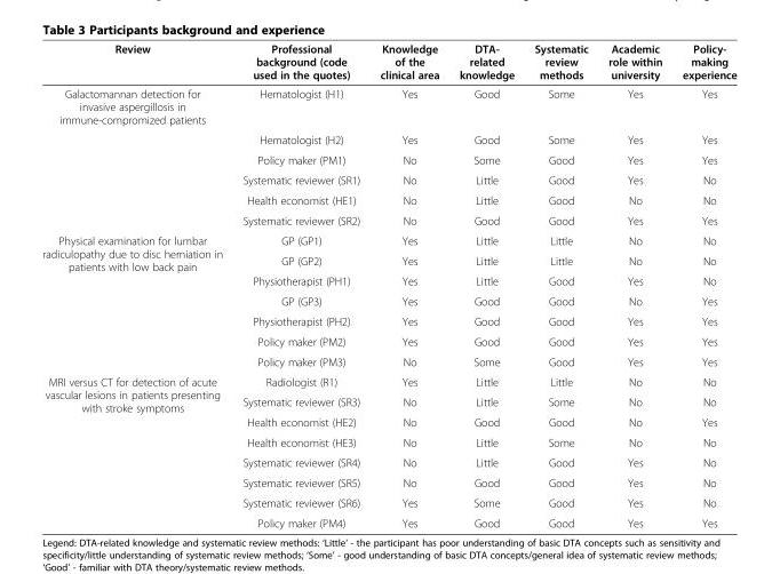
<table><thead><tr><td>Review</td><td>Professional background (code used in the quotes)</td><td>Knowledge of the clinical area</td><td>DTA- related knowledge</td><td>Systematic review methods</td><td>Academic role within university</td><td>Policy- making experience</td></tr></thead><tbody><tr><td rowspan="6">Galactomannan detection for invasive aspergillosis in immune-compromized patients</td><td>Hematologist (H1)</td><td>Yes</td><td>Good</td><td>Some</td><td>Yes</td><td>Yes</td></tr><tr><td>Hematologist (H2)</td><td>Yes</td><td>Good</td><td>Some</td><td>Yes</td><td>Yes</td></tr><tr><td>Policy maker (PM1)</td><td>No</td><td>Some</td><td>Good</td><td>Yes</td><td>Yes</td></tr><tr><td>Systematic reviewer (SR1)</td><td>No</td><td>Little</td><td>Good</td><td>Yes</td><td>No</td></tr><tr><td>Health economist (HE1)</td><td>No</td><td>Little</td><td>Good</td><td>No</td><td>No</td></tr><tr><td>Systematic reviewer (SR2)</td><td>No</td><td>Good</td><td>Good</td><td>Yes</td><td>Yes</td></tr><tr><td rowspan="7">Physical examination for lumbar radiculopathy due to disc herniation in patients with low back pain</td><td>GP (GP1)</td><td>Yes</td><td>Little</td><td>Little</td><td>No</td><td>No</td></tr><tr><td>GP (GP2)</td><td>Yes</td><td>Little</td><td>Little</td><td>No</td><td>No</td></tr><tr><td>Physiotherapist (PH1)</td><td>Yes</td><td>Little</td><td>Good</td><td>Yes</td><td>No</td></tr><tr><td>GP (GP3)</td><td>Yes</td><td>Good</td><td>Good</td><td>No</td><td>Yes</td></tr><tr><td>Physiotherapist (PH2)</td><td>Yes</td><td>Good</td><td>Good</td><td>Yes</td><td>Yes</td></tr><tr><td>Policy maker (PM2)</td><td>Yes</td><td>Good</td><td>Good</td><td>Yes</td><td>Yes</td></tr><tr><td>Policy maker (PM3)</td><td>No</td><td>Some</td><td>Good</td><td>Yes</td><td>Yes</td></tr><tr><td rowspan="8">MRI versus CT for detection of acute vascular lesions in patients presenting with stroke symptoms</td><td>Radiologist (R1)</td><td>Yes</td><td>Little</td><td>Little</td><td>No</td><td>No</td></tr><tr><td>Systematic reviewer (SR3)</td><td>No</td><td>Little</td><td>Some</td><td>No</td><td>No</td></tr><tr><td>Health economist (HE2)</td><td>No</td><td>Good</td><td>Good</td><td>No</td><td>Yes</td></tr><tr><td>Health economist (HE3)</td><td>No</td><td>Little</td><td>Some</td><td>No</td><td>No</td></tr><tr><td>Systematic reviewer (SR4)</td><td>No</td><td>Little</td><td>Good</td><td>Yes</td><td>No</td></tr><tr><td>Systematic reviewer (SR5)</td><td>No</td><td>Good</td><td>Good</td><td>Yes</td><td>No</td></tr><tr><td>Systematic reviewer (SR6)</td><td>Yes</td><td>Some</td><td>Good</td><td>Yes</td><td>No</td></tr><tr><td>Policy maker (PM4)</td><td>Yes</td><td>Good</td><td>Good</td><td>Yes</td><td>Yes</td></tr></tbody></table>